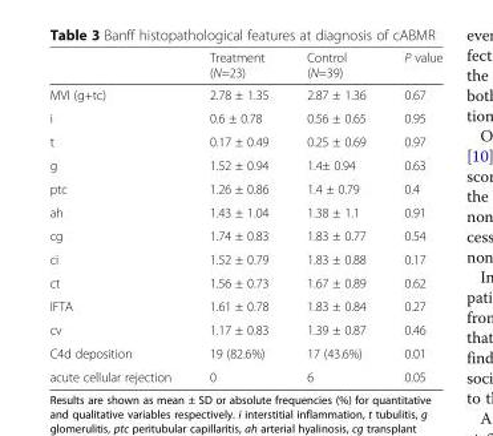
<table><thead><tr><td></td><td>Treatment (N=23)</td><td>Control (N=39)</td><td>P value</td></tr></thead><tbody><tr><td>MVI (g+tc)</td><td>2.78 ± 1.35</td><td>2.87 ± 1.36</td><td>0.67</td></tr><tr><td>i</td><td>0.6 ± 0.78</td><td>0.56 ± 0.65</td><td>0.95</td></tr><tr><td>t</td><td>0.17 ± 0.49</td><td>0.25 ± 0.69</td><td>0.97</td></tr><tr><td>g</td><td>1.52 ± 0.94</td><td>1.4± 0.94</td><td>0.63</td></tr><tr><td>ptc</td><td>1.26 ± 0.86</td><td>1.4 ± 0.79</td><td>0.4</td></tr><tr><td>ah</td><td>1.43 ± 1.04</td><td>1.38 ± 1.1</td><td>0.91</td></tr><tr><td>cg</td><td>1.74 ± 0.83</td><td>1.83 ± 0.77</td><td>0.54</td></tr><tr><td>ci</td><td>1.52 ± 0.79</td><td>1.83 ± 0.88</td><td>0.17</td></tr><tr><td>ct</td><td>1.56 ± 0.73</td><td>1.67 ± 0.89</td><td>0.62</td></tr><tr><td>IFTA</td><td>1.61 ± 0.78</td><td>1.83 ± 0.84</td><td>0.27</td></tr><tr><td>cv</td><td>1.17 ± 0.83</td><td>1.39 ± 0.87</td><td>0.46</td></tr><tr><td>C4d deposition</td><td>19 (82.6%)</td><td>17 (43.6%)</td><td>0.01</td></tr><tr><td>acute cellular rejection</td><td>0</td><td>6</td><td>0.05</td></tr></tbody></table>